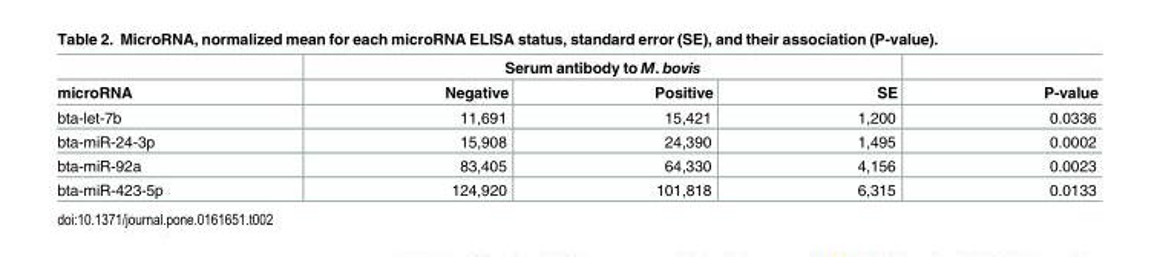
<table><thead><tr><td rowspan="2">microRNA</td><td colspan="3">Serum antibody to M. bovis</td><td rowspan="2">P-value</td></tr><tr><td>Negative</td><td>Positive</td><td>SE</td></tr></thead><tbody><tr><td>bta-let-7b</td><td>11,691</td><td>15,421</td><td>1,200</td><td>0.0336</td></tr><tr><td>bta-miR-24-3p</td><td>15,908</td><td>24,390</td><td>1,495</td><td>0.0002</td></tr><tr><td>bta-miR-92a</td><td>83,405</td><td>64,330</td><td>4,156</td><td>0.0023</td></tr><tr><td>bta-miR-423-5p</td><td>124,920</td><td>101,818</td><td>6,315</td><td>0.0133</td></tr></tbody></table>